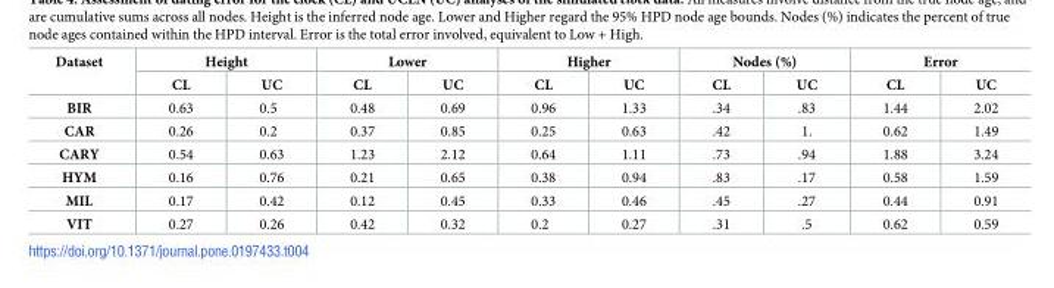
<table><thead><tr><td rowspan="2">Dataset</td><td colspan="2">Height</td><td colspan="2">Lower</td><td colspan="2">Higher</td><td colspan="2">Nodes (%)</td><td colspan="2">Error</td></tr><tr><td>CL</td><td>UC</td><td>CL</td><td>UC</td><td>CL</td><td>UC</td><td>CL</td><td>UC</td><td>CL</td><td>UC</td></tr></thead><tbody><tr><td>BIR</td><td>0.63</td><td>0.5</td><td>0.48</td><td>0.69</td><td>0.96</td><td>1.33</td><td>.34</td><td>.83</td><td>1.44</td><td>2.02</td></tr><tr><td>CAR</td><td>0.26</td><td>0.2</td><td>0.37</td><td>0.85</td><td>0.25</td><td>0.63</td><td>.42</td><td>1.</td><td>0.62</td><td>1.49</td></tr><tr><td>CARY</td><td>0.54</td><td>0.63</td><td>1.23</td><td>2.12</td><td>0.64</td><td>1.11</td><td>.73</td><td>.94</td><td>1.88</td><td>3.24</td></tr><tr><td>HYM</td><td>0.16</td><td>0.76</td><td>0.21</td><td>0.65</td><td>0.38</td><td>0.94</td><td>.83</td><td>.17</td><td>0.58</td><td>1.59</td></tr><tr><td>MIL</td><td>0.17</td><td>0.42</td><td>0.12</td><td>0.45</td><td>0.33</td><td>0.46</td><td>.45</td><td>.27</td><td>0.44</td><td>0.91</td></tr><tr><td>VIT</td><td>0.27</td><td>0.26</td><td>0.42</td><td>0.32</td><td>0.2</td><td>0.27</td><td>.31</td><td>.5</td><td>0.62</td><td>0.59</td></tr></tbody></table>